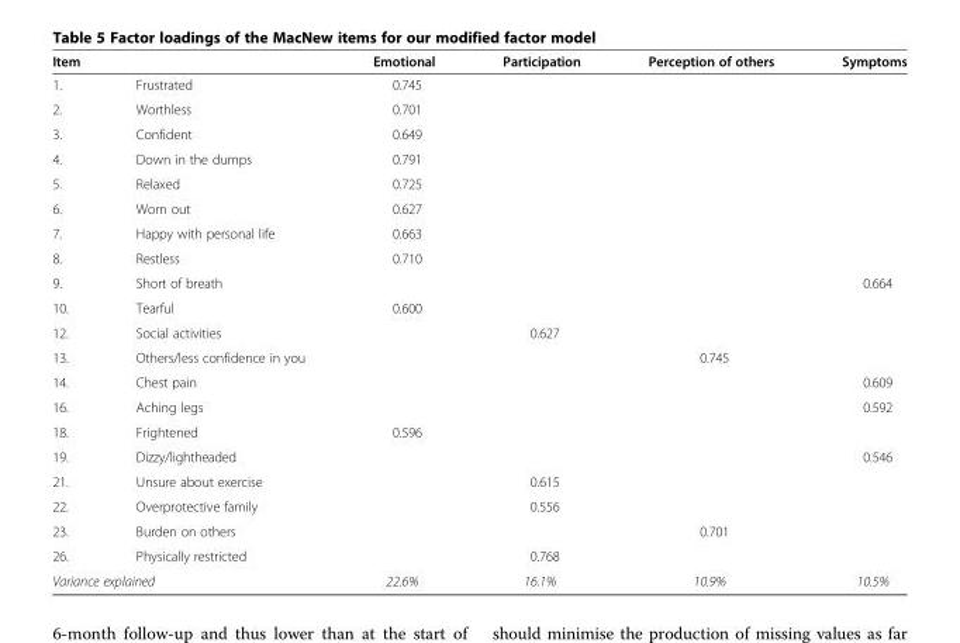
<table><thead><tr><td colspan="2">Item</td><td rowspan="2">Emotional 0.745</td><td rowspan="2">Participation</td><td rowspan="2">Perception of others</td><td rowspan="2">Symptoms</td></tr><tr><td>1.</td><td>Frustrated</td></tr></thead><tbody><tr><td>2.</td><td>Worthless</td><td>0.701</td><td></td><td></td><td></td></tr><tr><td>3.</td><td>Confident</td><td>0.649</td><td></td><td></td><td></td></tr><tr><td>4.</td><td>Down in the dumps</td><td>0.791</td><td></td><td></td><td></td></tr><tr><td>5.</td><td>Relaxed</td><td>0.725</td><td></td><td></td><td></td></tr><tr><td>6.</td><td>Worn out</td><td>0.627</td><td></td><td></td><td></td></tr><tr><td>7.</td><td>Happy with personal life</td><td>0.663</td><td></td><td></td><td></td></tr><tr><td>8.</td><td>Restless</td><td>0.710</td><td></td><td></td><td></td></tr><tr><td>9.</td><td>Short of breath</td><td></td><td></td><td></td><td>0.664</td></tr><tr><td>10.</td><td>Tearful</td><td>0.600</td><td></td><td></td><td></td></tr><tr><td>12.</td><td>Social activities</td><td></td><td>0.627</td><td></td><td></td></tr><tr><td>13.</td><td>Others/less confidence in you</td><td></td><td></td><td>0.745</td><td></td></tr><tr><td>14.</td><td>Chest pain</td><td></td><td></td><td></td><td>0.609</td></tr><tr><td>16.</td><td>Aching legs</td><td></td><td></td><td></td><td>0.592</td></tr><tr><td>18.</td><td>Frightened</td><td>0.596</td><td></td><td></td><td></td></tr><tr><td>19.</td><td>Dizzy/lightheaded</td><td></td><td></td><td></td><td>0.546</td></tr><tr><td>21.</td><td>Unsure about exercise</td><td></td><td>0.615</td><td></td><td></td></tr><tr><td>22.</td><td>Overprotective family</td><td></td><td>0.556</td><td></td><td></td></tr><tr><td>23.</td><td>Burden on others</td><td></td><td></td><td>0.701</td><td></td></tr><tr><td>26.</td><td>Physically restricted</td><td></td><td>0.768</td><td></td><td></td></tr><tr><td colspan="2">Variance explained</td><td>22.6%</td><td>16.1%</td><td>10.9%</td><td>10.5%</td></tr></tbody></table>